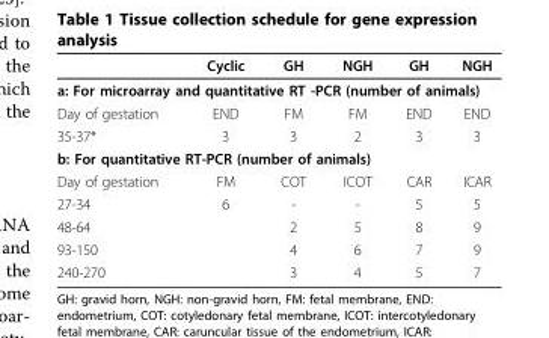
<table><thead><tr><td></td><td>Cyclic</td><td>GH</td><td>NGH</td><td>GH</td><td>NGH</td></tr></thead><tbody><tr><td colspan="6">a: For microarray and quantitative RT -PCR (number of animals)</td></tr><tr><td>Day of gestation</td><td>END</td><td>FM</td><td>FM</td><td>END</td><td>END</td></tr><tr><td>35-37*</td><td>3</td><td>3</td><td>2</td><td>3</td><td>3</td></tr><tr><td colspan="6">b: For quantitative RT-PCR (number of animals)</td></tr><tr><td>Day of gestation</td><td>FM</td><td>COT</td><td>ICOT</td><td>CAR</td><td>ICAR</td></tr><tr><td>27-34</td><td>6</td><td>-</td><td>-</td><td>5</td><td>5</td></tr><tr><td>48-64</td><td></td><td>2</td><td>5</td><td>8</td><td>9</td></tr><tr><td>93-150</td><td></td><td>4</td><td>6</td><td>7</td><td>9</td></tr><tr><td>240-270</td><td></td><td>3</td><td>4</td><td>5</td><td>7</td></tr></tbody></table>